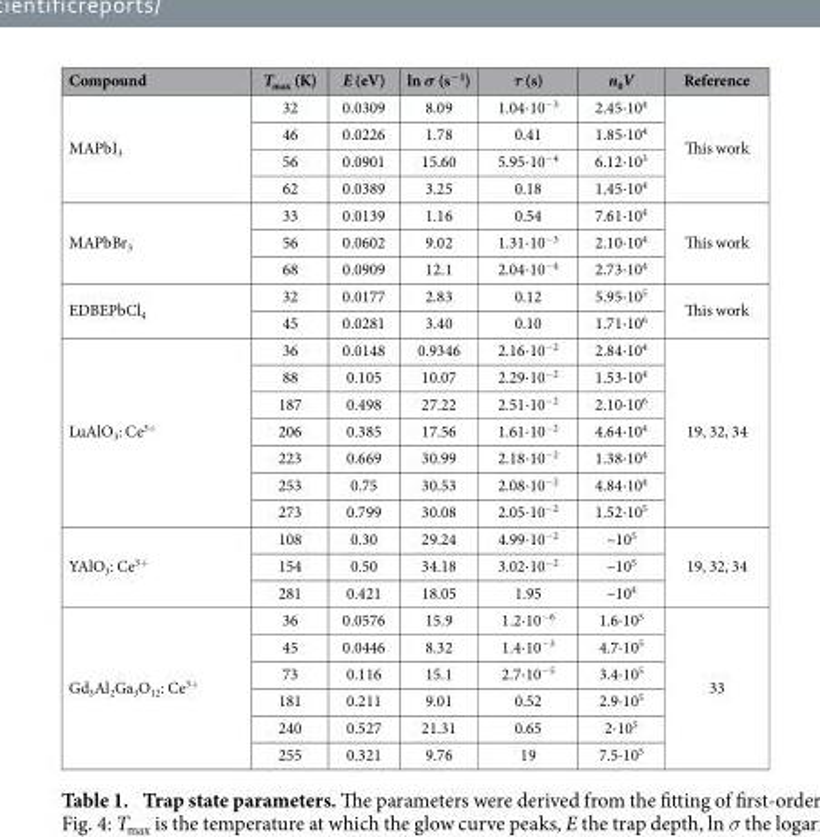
<table><thead><tr><td>Compound</td><td>T<sub>max</sub> (K)</td><td>E (eV)</td><td>ln σ (s<sup>−1</sup>)</td><td>τ (s)</td><td>n<sub>0</sub>V</td><td>Reference</td></tr></thead><tbody><tr><td rowspan="4">MAPbI<sub>3</sub></td><td>32</td><td>0.0309</td><td>8.09</td><td>1.04⋅ 10<sup>−3</sup></td><td>2.45⋅ 10<sup>4</sup></td><td rowspan="4">This work</td></tr><tr><td>46</td><td>0.0226</td><td>1.78</td><td>0.41</td><td>1.85⋅ 10<sup>4</sup></td></tr><tr><td>56</td><td>0.0901</td><td>15.60</td><td>5.95⋅ 10<sup>−4</sup></td><td>6.12⋅ 10<sup>3</sup></td></tr><tr><td>62</td><td>0.0389</td><td>3.25</td><td>0.18</td><td>1.45⋅ 10<sup>4</sup></td></tr><tr><td rowspan="3">MAPbBr<sub>3</sub></td><td>33</td><td>0.0139</td><td>1.16</td><td>0.54</td><td>7.61⋅ 10<sup>4</sup></td><td rowspan="3">This work</td></tr><tr><td>56</td><td>0.0602</td><td>9.02</td><td>1.31⋅ 10<sup>−3</sup></td><td>2.10⋅ 10<sup>4</sup></td></tr><tr><td>68</td><td>0.0909</td><td>12.1</td><td>2.04⋅ 10<sup>−4</sup></td><td>2.73⋅ 10<sup>4</sup></td></tr><tr><td rowspan="2">EDBEPbCl<sub>4</sub></td><td>32</td><td>0.0177</td><td>2.83</td><td>0.12</td><td>5.95⋅ 10<sup>5</sup></td><td rowspan="2">This work</td></tr><tr><td>45</td><td>0.0281</td><td>3.40</td><td>0.10</td><td>1.71⋅ 10<sup>6</sup></td></tr><tr><td rowspan="7">LuAlO<sub>3</sub>: Ce<sup>3+</sup></td><td>36</td><td>0.0148</td><td>0.9346</td><td>2.16⋅ 10<sup>−2</sup></td><td>2.84⋅ 10<sup>4</sup></td><td rowspan="7">19, 32, 34</td></tr><tr><td>88</td><td>0.105</td><td>10.07</td><td>2.29⋅ 10<sup>−2</sup></td><td>1.53⋅ 10<sup>4</sup></td></tr><tr><td>187</td><td>0.498</td><td>27.22</td><td>2.51⋅ 10<sup>−2</sup></td><td>2.10⋅ 10<sup>6</sup></td></tr><tr><td>206</td><td>0.385</td><td>17.56</td><td>1.61⋅ 10<sup>−2</sup></td><td>4.64⋅ 10<sup>4</sup></td></tr><tr><td>223</td><td>0.669</td><td>30.99</td><td>2.18⋅ 10<sup>−2</sup></td><td>1.38⋅ 10<sup>4</sup></td></tr><tr><td>253</td><td>0.75</td><td>30.53</td><td>2.08⋅ 10<sup>−2</sup></td><td>4.84⋅ 10<sup>4</sup></td></tr><tr><td>273</td><td>0.799</td><td>30.08</td><td>2.05⋅ 10<sup>−2</sup></td><td>1.52⋅ 10<sup>5</sup></td></tr><tr><td rowspan="3">YAlO<sub>3</sub>: Ce<sup>3+</sup></td><td>108</td><td>0.30</td><td>29.24</td><td>4.99⋅ 10<sup>−2</sup></td><td>~10<sup>5</sup></td><td rowspan="3">19, 32, 34</td></tr><tr><td>154</td><td>0.50</td><td>34.18</td><td>3.02⋅ 10<sup>−2</sup></td><td>~10<sup>5</sup></td></tr><tr><td>281</td><td>0.421</td><td>18.05</td><td>1.95</td><td>~10<sup>4</sup></td></tr><tr><td rowspan="6">Gd<sub>3</sub>Al<sub>2</sub>Ga<sub>3</sub>O<sub>12</sub>: Ce<sup>3+</sup></td><td>36</td><td>0.0576</td><td>15.9</td><td>1.2⋅ 10<sup>−6</sup></td><td>1.6⋅ 10<sup>5</sup></td><td rowspan="6">33</td></tr><tr><td>45</td><td>0.0446</td><td>8.32</td><td>1.4⋅ 10<sup>−3</sup></td><td>4.7⋅ 10<sup>5</sup></td></tr><tr><td>73</td><td>0.116</td><td>15.1</td><td>2.7⋅ 10<sup>−5</sup></td><td>3.4⋅ 10<sup>5</sup></td></tr><tr><td>181</td><td>0.211</td><td>9.01</td><td>0.52</td><td>2.9⋅ 10<sup>5</sup></td></tr><tr><td>240</td><td>0.527</td><td>21.31</td><td>0.65</td><td>2⋅ 10<sup>5</sup></td></tr><tr><td>255</td><td>0.321</td><td>9.76</td><td>19</td><td>7.5⋅ 10<sup>5</sup></td></tr></tbody></table>